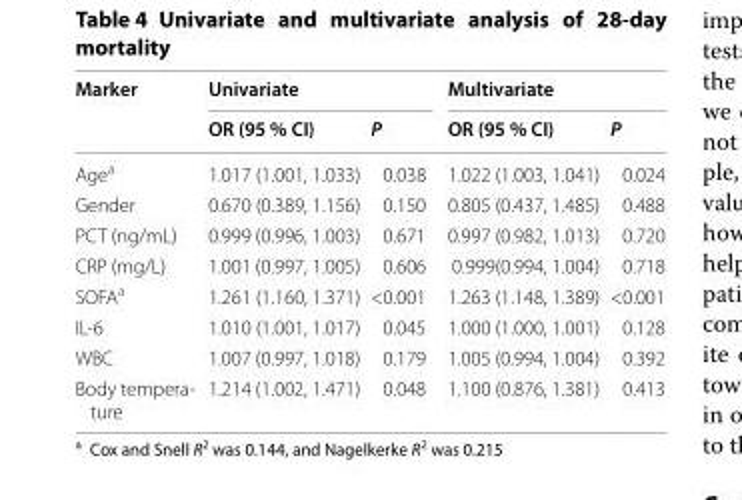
<table><thead><tr><td rowspan="2">Marker</td><td colspan="2">Univariate</td><td colspan="2">Multivariate</td></tr><tr><td>OR (95 % CI)</td><td>P</td><td>OR (95 % CI)</td><td>P</td></tr></thead><tbody><tr><td>Age<sup>a</sup></td><td>1.017 (1.001, 1.033)</td><td>0.038</td><td>1.022 (1.003, 1.041)</td><td>0.024</td></tr><tr><td>Gender</td><td>0.670 (0.389, 1.156)</td><td>0.150</td><td>0.805 (0.437, 1.485)</td><td>0.488</td></tr><tr><td>PCT (ng/mL)</td><td>0.999 (0.996, 1.003)</td><td>0.671</td><td>0.997 (0.982, 1.013)</td><td>0.720</td></tr><tr><td>CRP (mg/L)</td><td>1.001 (0.997, 1.005)</td><td>0.606</td><td>0.999(0.994, 1.004)</td><td>0.718</td></tr><tr><td>SOFA<sup>a</sup></td><td>1.261 (1.160, 1.371)</td><td>&lt;0.001</td><td>1.263 (1.148, 1.389)</td><td>&lt;0.001</td></tr><tr><td>IL-6</td><td>1.010 (1.001, 1.017)</td><td>0.045</td><td>1.000 (1.000, 1.001)</td><td>0.128</td></tr><tr><td>WBC</td><td>1.007 (0.997, 1.018)</td><td>0.179</td><td>1.005 (0.994, 1.004)</td><td>0.392</td></tr><tr><td>Body tempera- ture</td><td>1.214 (1.002, 1.471)</td><td>0.048</td><td>1.100 (0.876, 1.381)</td><td>0.413</td></tr></tbody></table>